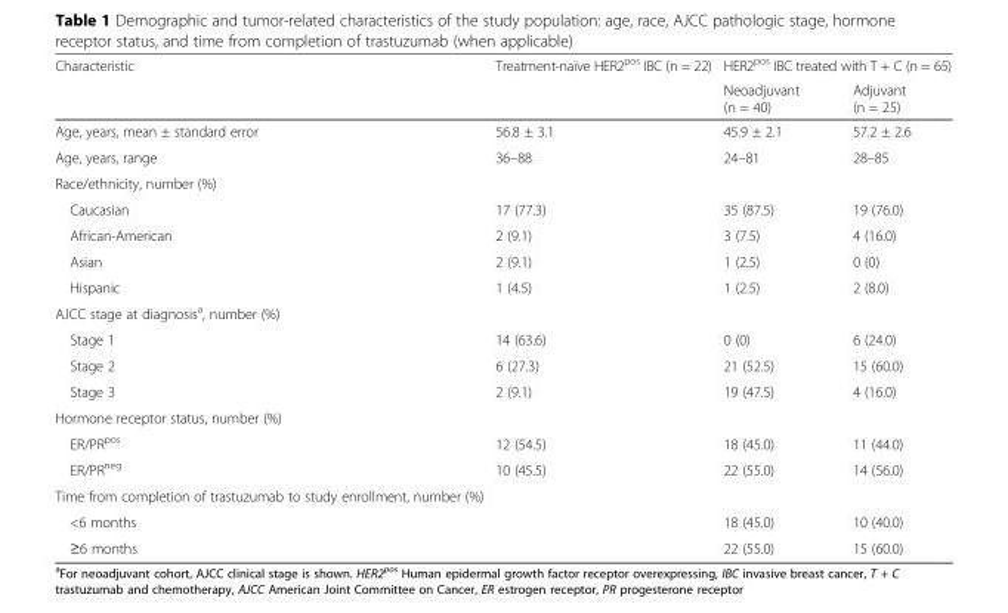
<table><thead><tr><td rowspan="2">Characteristic</td><td rowspan="2">Treatment-naïve HER2<sup>pos</sup> IBC (n = 22)</td><td colspan="2">HER2<sup>pos</sup> IBC treated with T + C (n = 65)</td></tr><tr><td>Neoadjuvant (n = 40)</td><td>Adjuvant (n = 25)</td></tr></thead><tbody><tr><td>Age, years, mean ± standard error</td><td>56.8 ± 3.1</td><td>45.9 ± 2.1</td><td>57.2 ± 2.6</td></tr><tr><td>Age, years, range</td><td>36–88</td><td>24–81</td><td>28–85</td></tr><tr><td colspan="4">Race/ethnicity, number (%)</td></tr><tr><td>Caucasian</td><td>17 (77.3)</td><td>35 (87.5)</td><td>19 (76.0)</td></tr><tr><td>African-American</td><td>2 (9.1)</td><td>3 (7.5)</td><td>4 (16.0)</td></tr><tr><td>Asian</td><td>2 (9.1)</td><td>1 (2.5)</td><td>0 (0)</td></tr><tr><td>Hispanic</td><td>1 (4.5)</td><td>1 (2.5)</td><td>2 (8.0)</td></tr><tr><td colspan="4">AJCC stage at diagnosis<sup>a</sup>, number (%)</td></tr><tr><td>Stage 1</td><td>14 (63.6)</td><td>0 (0)</td><td>6 (24.0)</td></tr><tr><td>Stage 2</td><td>6 (27.3)</td><td>21 (52.5)</td><td>15 (60.0)</td></tr><tr><td>Stage 3</td><td>2 (9.1)</td><td>19 (47.5)</td><td>4 (16.0)</td></tr><tr><td colspan="4">Hormone receptor status, number (%)</td></tr><tr><td>ER/PR<sup>pos</sup></td><td>12 (54.5)</td><td>18 (45.0)</td><td>11 (44.0)</td></tr><tr><td>ER/PR<sup>neg</sup></td><td>10 (45.5)</td><td>22 (55.0)</td><td>14 (56.0)</td></tr><tr><td colspan="4">Time from completion of trastuzumab to study enrollment, number (%)</td></tr><tr><td>&lt;6 months</td><td></td><td>18 (45.0)</td><td>10 (40.0)</td></tr><tr><td>≥6 months</td><td></td><td>22 (55.0)</td><td>15 (60.0)</td></tr></tbody></table>